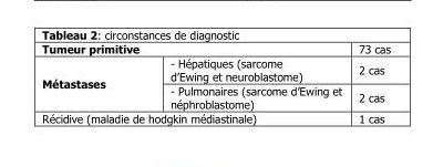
<table><tbody><tr><td colspan="2">Tumeur primitive</td><td>73 cas</td></tr><tr><td rowspan="2">Métastases</td><td>- Hépatiques (sarcome d’Ewing et neuroblastome)</td><td>2 cas</td></tr><tr><td>- Pulmonaires (sarcome d’Ewing et néphroblastome)</td><td>2 cas</td></tr><tr><td colspan="2">Récidive (maladie de hodgkin médiastinale)</td><td>1 cas</td></tr></tbody></table>